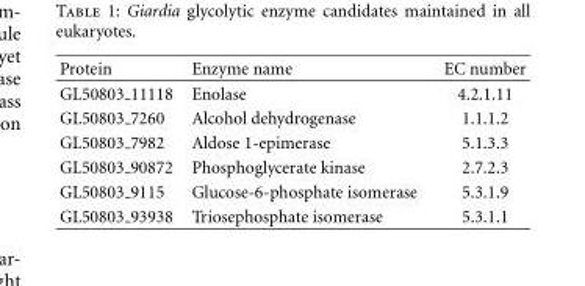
<table><thead><tr><td>Protein</td><td>Enzyme name</td><td>EC number</td></tr></thead><tbody><tr><td>GL50803 11118</td><td>Enolase</td><td>4.2.1.11</td></tr><tr><td>GL50803 7260</td><td>Alcohol dehydrogenase</td><td>1.1.1.2</td></tr><tr><td>GL50803 7982</td><td>Aldose 1-epimerase</td><td>5.1.3.3</td></tr><tr><td>GL50803 90872</td><td>Phosphoglycerate kinase</td><td>2.7.2.3</td></tr><tr><td>GL50803 9115</td><td>Glucose-6-phosphate isomerase</td><td>5.3.1.9</td></tr><tr><td>GL50803 93938</td><td>Triosephosphate isomerase</td><td>5.3.1.1</td></tr></tbody></table>